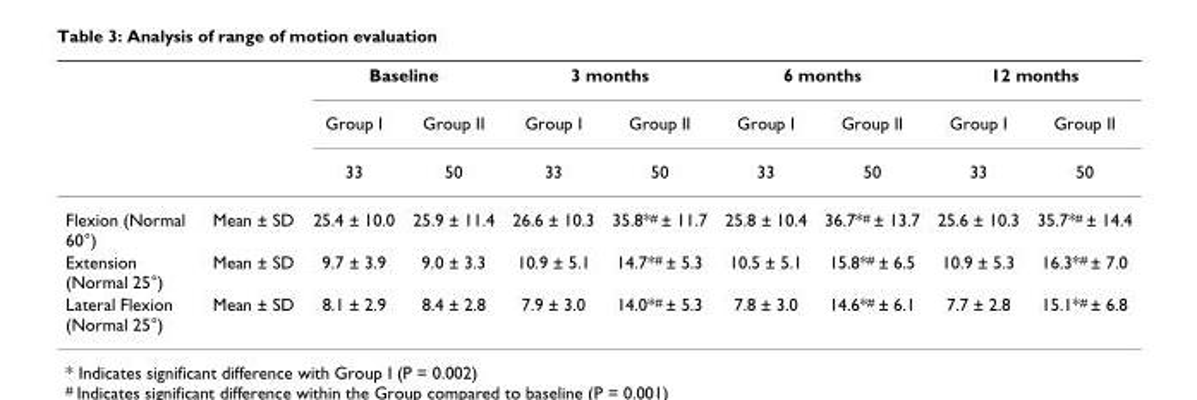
<table><thead><tr><td rowspan="3"></td><td rowspan="3"></td><td colspan="2">Baseline</td><td colspan="2">3 months</td><td colspan="2">6 months</td><td colspan="2">12 months</td></tr><tr><td rowspan="2">Group I 33</td><td rowspan="2">Group II 50</td><td rowspan="2">Group I 33</td><td rowspan="2">Group II 50</td><td rowspan="2">Group I 33</td><td rowspan="2">Group II 50</td><td rowspan="2">Group I 33</td><td rowspan="2">Group II 50</td></tr><tr></tr></thead><tbody><tr><td>Flexion (Normal 60°)</td><td>Mean ± SD</td><td>25.4 ± 10.0</td><td>25.9 ± 11.4</td><td>26.6 ± 10.3</td><td>35.8*<sup>#</sup> ± 11.7</td><td>25.8 ± 10.4</td><td>36.7*<sup>#</sup> ± 13.7</td><td>25.6 ± 10.3</td><td>35.7*<sup>#</sup> ± 14.4</td></tr><tr><td>Extension (Normal 25°)</td><td>Mean ± SD</td><td>9.7 ± 3.9</td><td>9.0 ± 3.3</td><td>10.9 ± 5.1</td><td>14.7*<sup>#</sup> ± 5.3</td><td>10.5 ± 5.1</td><td>15.8*<sup>#</sup> ± 6.5</td><td>10.9 ± 5.3</td><td>16.3*<sup>#</sup> ± 7.0</td></tr><tr><td>Lateral Flexion (Normal 25°)</td><td>Mean ± SD</td><td>8.1 ± 2.9</td><td>8.4 ± 2.8</td><td>7.9 ± 3.0</td><td>14.0*<sup>#</sup> ± 5.3</td><td>7.8 ± 3.0</td><td>14.6*<sup>#</sup> ± 6.1</td><td>7.7 ± 2.8</td><td>15.1*<sup>#</sup> ± 6.8</td></tr></tbody></table>